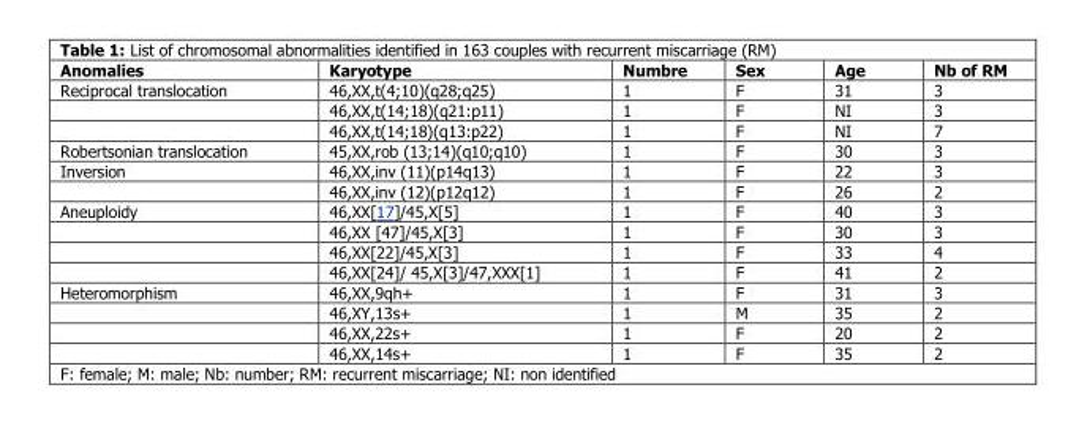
<table><thead><tr><td>Anomalies</td><td>Karyotype</td><td>Numbre</td><td>Sex</td><td>Age</td><td>Nb of RM</td></tr></thead><tbody><tr><td rowspan="3">Reciprocal translocation</td><td>46,XX,t(4;10)(q28;q25)</td><td>1</td><td>F</td><td>31</td><td>3</td></tr><tr><td>46,XX,t(14;18)(q21:p11)</td><td>1</td><td>F</td><td>NI</td><td>3</td></tr><tr><td>46,XX,t(14;18)(q13:p22)</td><td>1</td><td>F</td><td>NI</td><td>7</td></tr><tr><td>Robertsonian translocation</td><td>45,XX,rob (13;14)(q10;q10)</td><td>1</td><td>F</td><td>30</td><td>3</td></tr><tr><td rowspan="2">Inversion</td><td>46,XX,inv (11)(p14q13)</td><td>1</td><td>F</td><td>22</td><td>3</td></tr><tr><td>46,XX,inv (12)(p12q12)</td><td>1</td><td>F</td><td>26</td><td>2</td></tr><tr><td rowspan="4">Aneuploidy</td><td>46,XX[17]/45,X[5]</td><td>1</td><td>F</td><td>40</td><td>3</td></tr><tr><td>46,XX [47]/45,X[3]</td><td>1</td><td>F</td><td>30</td><td>3</td></tr><tr><td>46,XX[22]/45,X[3]</td><td>1</td><td>F</td><td>33</td><td>4</td></tr><tr><td>46,XX[24]/ 45,X[3]/47,XXX[1]</td><td>1</td><td>F</td><td>41</td><td>2</td></tr><tr><td rowspan="4">Heteromorphism</td><td>46,XX,9qh+</td><td>1</td><td>F</td><td>31</td><td>3</td></tr><tr><td>46,XY,13s+</td><td>1</td><td>M</td><td>35</td><td>2</td></tr><tr><td>46,XX,22s+</td><td>1</td><td>F</td><td>20</td><td>2</td></tr><tr><td>46,XX,14s+</td><td>1</td><td>F</td><td>35</td><td>2</td></tr></tbody></table>